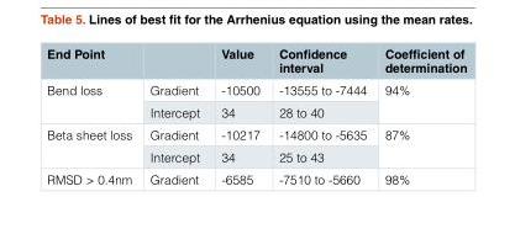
<table><thead><tr><td>End Point</td><td></td><td>Value</td><td>Confidence interval</td><td>Coefficient of determination</td></tr></thead><tbody><tr><td rowspan="2">Bend loss</td><td>Gradient</td><td>-10500</td><td>-13555 to -7444</td><td rowspan="2">94%</td></tr><tr><td>Intercept</td><td>34</td><td>28 to 40</td></tr><tr><td rowspan="2">Beta sheet loss</td><td>Gradient</td><td>-10217</td><td>-14800 to -5635</td><td rowspan="2">87%</td></tr><tr><td>Intercept</td><td>34</td><td>25 to 43</td></tr><tr><td>RMSD &gt; 0.4nm</td><td>Gradient</td><td>-6585</td><td>-7510 to -5660</td><td>98%</td></tr></tbody></table>